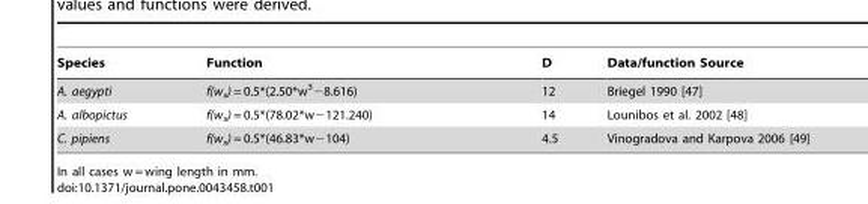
<table><thead><tr><td>Species</td><td>Function</td><td>D</td><td>Data/function Source</td></tr></thead><tbody><tr><td>A. aegypti</td><td>f(w<sub>x</sub>) = 0.5*(2.50*w<sup>3</sup>−8.616)</td><td>12</td><td>Briegel 1990 [47]</td></tr><tr><td>A. albopictus</td><td>f(w<sub>x</sub>) = 0.5*(78.02*w−121.240)</td><td>14</td><td>Lounibos et al. 2002 [48]</td></tr><tr><td>C. pipiens</td><td>f(w<sub>x</sub>) = 0.5*(46.83*w−104)</td><td>4.5</td><td>Vinogradova and Karpova 2006 [49]</td></tr></tbody></table>